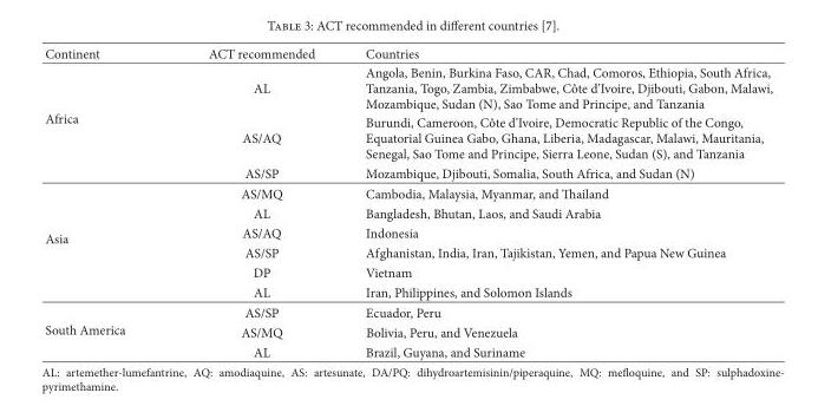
<table><thead><tr><td>Continent</td><td>ACT recommended</td><td>Countries</td></tr></thead><tbody><tr><td rowspan="3">Africa</td><td>AL</td><td>Angola, Benin, Burkina Faso, CAR, Chad, Comoros, Ethiopia, South Africa, Tanzania, Togo, Zambia, Zimbabwe, Cˆote d’Ivoire, Djibouti, Gabon, Malawi, Mozambique, Sudan (N), Sao Tome and Principe, and Tanzania</td></tr><tr><td>AS/AQ</td><td>Burundi, Cameroon, Cˆote d’Ivoire, Democratic Republic of the Congo, Equatorial Guinea Gabo, Ghana, Liberia, Madagascar, Malawi, Mauritania, Senegal, Sao Tome and Principe, Sierra Leone, Sudan (S), and Tanzania</td></tr><tr><td>AS/SP</td><td>Mozambique, Djibouti, Somalia, South Africa, and Sudan (N)</td></tr><tr><td rowspan="6">Asia</td><td>AS/MQ</td><td>Cambodia, Malaysia, Myanmar, and Thailand</td></tr><tr><td>AL</td><td>Bangladesh, Bhutan, Laos, and Saudi Arabia</td></tr><tr><td>AS/AQ</td><td>Indonesia</td></tr><tr><td>AS/SP</td><td>Afghanistan, India, Iran, Tajikistan, Yemen, and Papua New Guinea</td></tr><tr><td>DP</td><td>Vietnam</td></tr><tr><td>AL</td><td>Iran, Philippines, and Solomon Islands</td></tr><tr><td rowspan="3">South America</td><td>AS/SP</td><td>Ecuador, Peru</td></tr><tr><td>AS/MQ</td><td>Bolivia, Peru, and Venezuela</td></tr><tr><td>AL</td><td>Brazil, Guyana, and Suriname</td></tr></tbody></table>